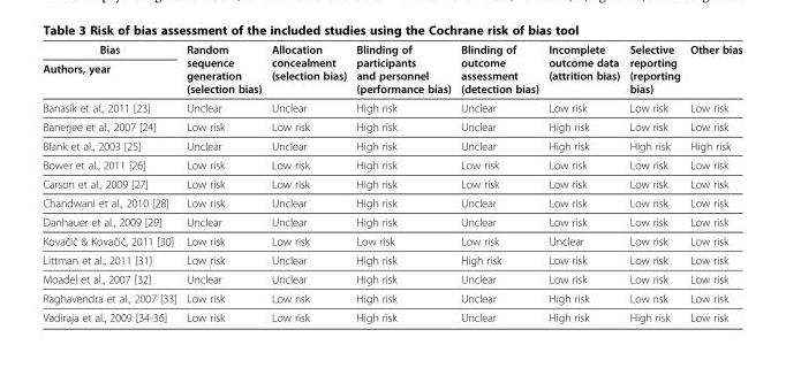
<table><thead><tr><td rowspan="2">Bias Authors, year</td><td rowspan="2">Random sequence generation (selection bias)</td><td rowspan="2">Allocation concealment (selection bias)</td><td rowspan="2">Blinding of participants and personnel (performance bias)</td><td rowspan="2">Blinding of outcome assessment (detection bias)</td><td rowspan="2">Incomplete outcome data (attrition bias)</td><td rowspan="2">Selective reporting (reporting bias)</td><td rowspan="2">Other bias</td></tr><tr></tr></thead><tbody><tr><td>Banasik et al., 2011 [23]</td><td>Unclear</td><td>Unclear</td><td>High risk</td><td>Unclear</td><td>Low risk</td><td>Low risk</td><td>Low risk</td></tr><tr><td>Banerjee et al., 2007 [24]</td><td>Low risk</td><td>Low risk</td><td>High risk</td><td>Unclear</td><td>High risk</td><td>Low risk</td><td>Low risk</td></tr><tr><td>Blank et al., 2003 [25]</td><td>Unclear</td><td>Unclear</td><td>High risk</td><td>Unclear</td><td>High risk</td><td>High risk</td><td>High risk</td></tr><tr><td>Bower et al., 2011 [26]</td><td>Low risk</td><td>Low risk</td><td>High risk</td><td>Low risk</td><td>Low risk</td><td>Low risk</td><td>Low risk</td></tr><tr><td>Carson et al., 2009 [27]</td><td>Low risk</td><td>Low risk</td><td>High risk</td><td>Low risk</td><td>Low risk</td><td>Low risk</td><td>Low risk</td></tr><tr><td>Chandwani et al., 2010 [28]</td><td>Low risk</td><td>Unclear</td><td>High risk</td><td>Unclear</td><td>Low risk</td><td>Low risk</td><td>Low risk</td></tr><tr><td>Danhauer et al., 2009 [29]</td><td>Unclear</td><td>Unclear</td><td>High risk</td><td>Unclear</td><td>Low risk</td><td>Low risk</td><td>Low risk</td></tr><tr><td>Kovačič &amp; Kovačič, 2011 [30]</td><td>Low risk</td><td>Low risk</td><td>Low risk</td><td>Low risk</td><td>Unclear</td><td>Low risk</td><td>Low risk</td></tr><tr><td>Littman et al., 2011 [31]</td><td>Low risk</td><td>Unclear</td><td>High risk</td><td>High risk</td><td>Low risk</td><td>Low risk</td><td>Low risk</td></tr><tr><td>Moadel et al., 2007 [32]</td><td>Unclear</td><td>Unclear</td><td>High risk</td><td>Unclear</td><td>Low risk</td><td>Low risk</td><td>Low risk</td></tr><tr><td>Raghavendra et al., 2007 [33]</td><td>Low risk</td><td>Low risk</td><td>High risk</td><td>Unclear</td><td>High risk</td><td>Low risk</td><td>Low risk</td></tr><tr><td>Vadiraja et al., 2009 [34-36]</td><td>Low risk</td><td>Low risk</td><td>High risk</td><td>Unclear</td><td>High risk</td><td>High risk</td><td>Low risk</td></tr></tbody></table>